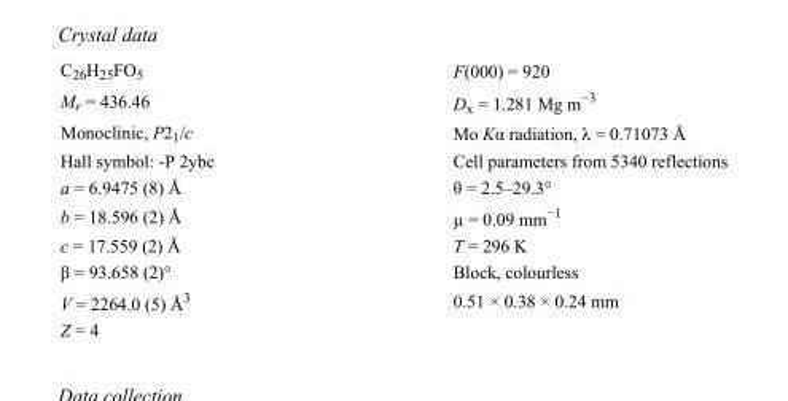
<table><tbody><tr><td>C<sub>26</sub>H<sub>25</sub>FO<sub>5</sub></td><td>F(000) = 920</td></tr><tr><td>M<sub>r</sub> = 436.46</td><td>D<sub>x</sub> = 1.281 Mg m<sup>−3</sup></td></tr><tr><td>Monoclinic, P2<sub>1</sub>/c</td><td>Mo Kα radiation, λ = 0.71073 Å</td></tr><tr><td>Hall symbol: -P 2ybc</td><td>Cell parameters from 5340 reflections</td></tr><tr><td>a = 6.9475 (8) Å</td><td>θ = 2.5–29.3°</td></tr><tr><td>b = 18.596 (2) Å</td><td>µ = 0.09 mm<sup>−1</sup></td></tr><tr><td>c = 17.559 (2) Å</td><td>T = 296 K</td></tr><tr><td>β = 93.658 (2)°</td><td>Block, colourless</td></tr><tr><td>V = 2264.0 (5) Å<sup>3</sup></td><td>0.51 × 0.38 × 0.24 mm</td></tr><tr><td>Z = 4</td><td></td></tr></tbody></table>